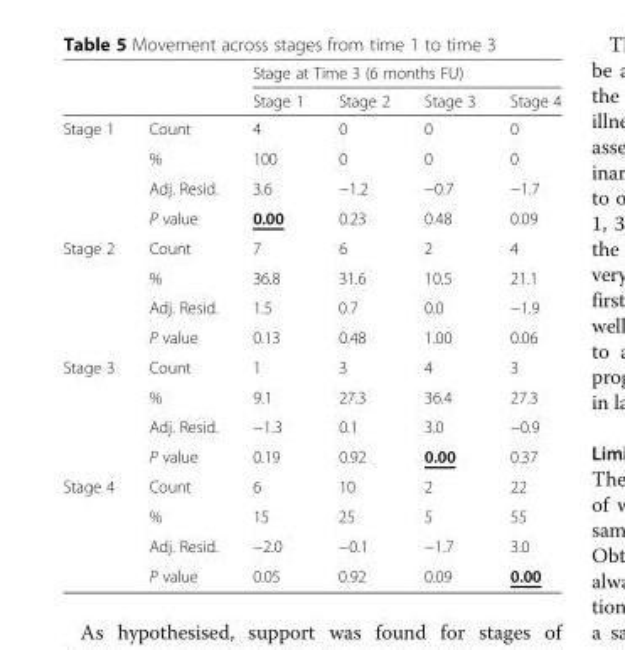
<table><thead><tr><td rowspan="2"></td><td rowspan="2"></td><td colspan="4">Stage at Time 3 (6 months FU)</td></tr><tr><td>Stage 1</td><td>Stage 2</td><td>Stage 3</td><td>Stage 4</td></tr></thead><tbody><tr><td rowspan="4">Stage 1</td><td>Count</td><td>4</td><td>0</td><td>0</td><td>0</td></tr><tr><td>%</td><td>100</td><td>0</td><td>0</td><td>0</td></tr><tr><td>Adj. Resid.</td><td>3.6</td><td>−1.2</td><td>−0.7</td><td>−1.7</td></tr><tr><td>P value</td><td>0.00</td><td>0.23</td><td>0.48</td><td>0.09</td></tr><tr><td rowspan="4">Stage 2</td><td>Count</td><td>7</td><td>6</td><td>2</td><td>4</td></tr><tr><td>%</td><td>36.8</td><td>31.6</td><td>10.5</td><td>21.1</td></tr><tr><td>Adj. Resid.</td><td>1.5</td><td>0.7</td><td>0.0</td><td>−1.9</td></tr><tr><td>P value</td><td>0.13</td><td>0.48</td><td>1.00</td><td>0.06</td></tr><tr><td rowspan="4">Stage 3</td><td>Count</td><td>1</td><td>3</td><td>4</td><td>3</td></tr><tr><td>%</td><td>9.1</td><td>27.3</td><td>36.4</td><td>27.3</td></tr><tr><td>Adj. Resid.</td><td>−1.3</td><td>0.1</td><td>3.0</td><td>−0.9</td></tr><tr><td>P value</td><td>0.19</td><td>0.92</td><td>0.00</td><td>0.37</td></tr><tr><td rowspan="4">Stage 4</td><td>Count</td><td>6</td><td>10</td><td>2</td><td>22</td></tr><tr><td>%</td><td>15</td><td>25</td><td>5</td><td>55</td></tr><tr><td>Adj. Resid.</td><td>−2.0</td><td>−0.1</td><td>−1.7</td><td>3.0</td></tr><tr><td>P value</td><td>0.05</td><td>0.92</td><td>0.09</td><td>0.00</td></tr></tbody></table>